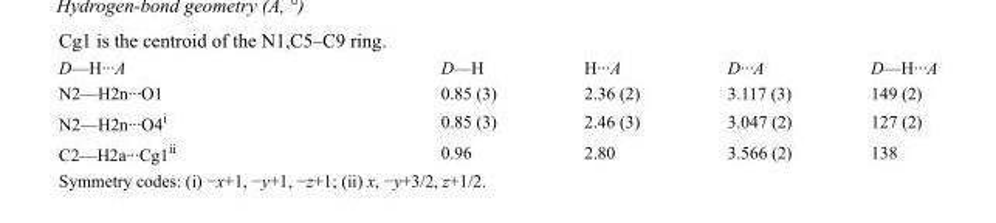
<table><tbody><tr><td>D—H···A</td><td>D—H</td><td>H···A</td><td>D···A</td><td>D—H···A</td></tr><tr><td>N2—H2n···O1</td><td>0.85 (3)</td><td>2.36 (2)</td><td>3.117 (3)</td><td>149 (2)</td></tr><tr><td>N2—H2n···O4<sup>i</sup></td><td>0.85 (3)</td><td>2.46 (3)</td><td>3.047 (2)</td><td>127 (2)</td></tr><tr><td>C2—H2a···Cg1<sup>ii</sup></td><td>0.96</td><td>2.80</td><td>3.566 (2)</td><td>138</td></tr></tbody></table>